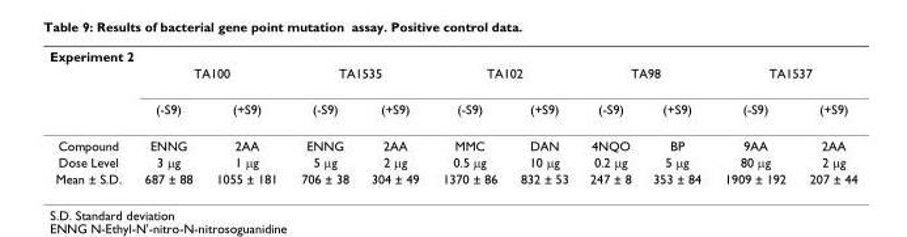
<table><thead><tr><td colspan="11">Experiment 2</td></tr><tr><td rowspan="2"></td><td colspan="2">TA100</td><td colspan="2">TA1535</td><td colspan="2">TA102</td><td colspan="2">TA98</td><td colspan="2">TA1537</td></tr><tr><td>(-S9)</td><td>(+S9)</td><td>(-S9)</td><td>(+S9)</td><td>(-S9)</td><td>(+S9)</td><td>(-S9)</td><td>(+S9)</td><td>(-S9)</td><td>(+S9)</td></tr></thead><tbody><tr><td>Compound</td><td>ENNG</td><td>2AA</td><td>ENNG</td><td>2AA</td><td>MMC</td><td>DAN</td><td>4NQO</td><td>BP</td><td>9AA</td><td>2AA</td></tr><tr><td>Dose Level</td><td>3 μg</td><td>1 μg</td><td>5 μg</td><td>2 μg</td><td>0.5 μg</td><td>10 μg</td><td>0.2 μg</td><td>5 μg</td><td>80 μg</td><td>2 μg</td></tr><tr><td>Mean ± S.D.</td><td>687 ± 88</td><td>1055 ± 181</td><td>706 ± 38</td><td>304 ± 49</td><td>1370 ± 86</td><td>832 ± 53</td><td>247 ± 8</td><td>353 ± 84</td><td>1909 ± 192</td><td>207 ± 44</td></tr></tbody></table>